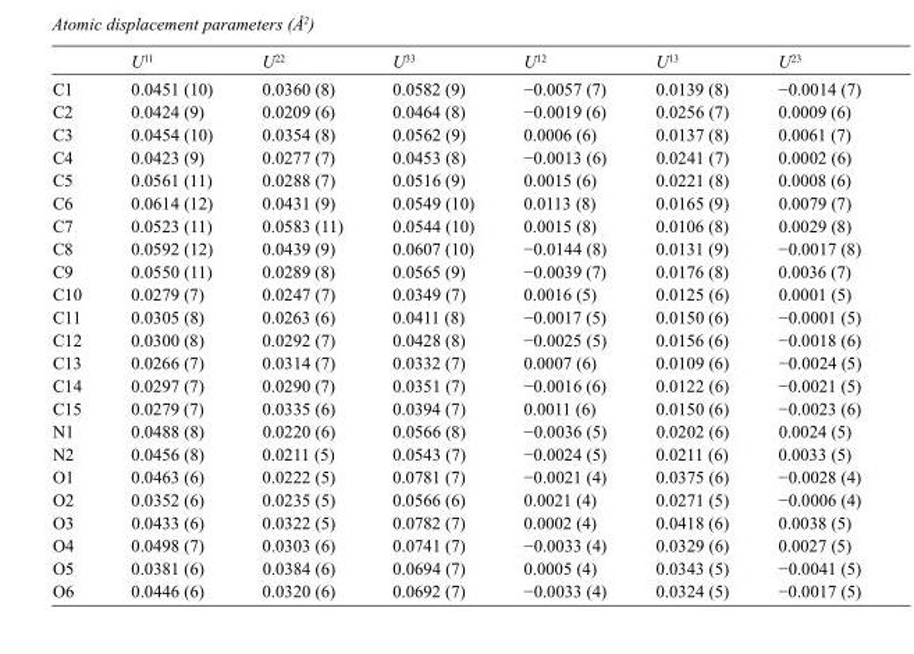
<table><thead><tr><td></td><td>U<sup>11</sup></td><td>U<sup>22</sup></td><td>U<sup>33</sup></td><td>U<sup>12</sup></td><td>U<sup>13</sup></td><td>U<sup>23</sup></td></tr></thead><tbody><tr><td>C1</td><td>0.0451 (10)</td><td>0.0360 (8)</td><td>0.0582 (9)</td><td>−0.0057 (7)</td><td>0.0139 (8)</td><td>−0.0014 (7)</td></tr><tr><td>C2</td><td>0.0424 (9)</td><td>0.0209 (6)</td><td>0.0464 (8)</td><td>−0.0019 (6)</td><td>0.0256 (7)</td><td>0.0009 (6)</td></tr><tr><td>C3</td><td>0.0454 (10)</td><td>0.0354 (8)</td><td>0.0562 (9)</td><td>0.0006 (6)</td><td>0.0137 (8)</td><td>0.0061 (7)</td></tr><tr><td>C4</td><td>0.0423 (9)</td><td>0.0277 (7)</td><td>0.0453 (8)</td><td>−0.0013 (6)</td><td>0.0241 (7)</td><td>0.0002 (6)</td></tr><tr><td>C5</td><td>0.0561 (11)</td><td>0.0288 (7)</td><td>0.0516 (9)</td><td>0.0015 (6)</td><td>0.0221 (8)</td><td>0.0008 (6)</td></tr><tr><td>C6</td><td>0.0614 (12)</td><td>0.0431 (9)</td><td>0.0549 (10)</td><td>0.0113 (8)</td><td>0.0165 (9)</td><td>0.0079 (7)</td></tr><tr><td>C7</td><td>0.0523 (11)</td><td>0.0583 (11)</td><td>0.0544 (10)</td><td>0.0015 (8)</td><td>0.0106 (8)</td><td>0.0029 (8)</td></tr><tr><td>C8</td><td>0.0592 (12)</td><td>0.0439 (9)</td><td>0.0607 (10)</td><td>−0.0144 (8)</td><td>0.0131 (9)</td><td>−0.0017 (8)</td></tr><tr><td>C9</td><td>0.0550 (11)</td><td>0.0289 (8)</td><td>0.0565 (9)</td><td>−0.0039 (7)</td><td>0.0176 (8)</td><td>0.0036 (7)</td></tr><tr><td>C10</td><td>0.0279 (7)</td><td>0.0247 (7)</td><td>0.0349 (7)</td><td>0.0016 (5)</td><td>0.0125 (6)</td><td>0.0001 (5)</td></tr><tr><td>C11</td><td>0.0305 (8)</td><td>0.0263 (6)</td><td>0.0411 (8)</td><td>−0.0017 (5)</td><td>0.0150 (6)</td><td>−0.0001 (5)</td></tr><tr><td>C12</td><td>0.0300 (8)</td><td>0.0292 (7)</td><td>0.0428 (8)</td><td>−0.0025 (5)</td><td>0.0156 (6)</td><td>−0.0018 (6)</td></tr><tr><td>C13</td><td>0.0266 (7)</td><td>0.0314 (7)</td><td>0.0332 (7)</td><td>0.0007 (6)</td><td>0.0109 (6)</td><td>−0.0024 (5)</td></tr><tr><td>C14</td><td>0.0297 (7)</td><td>0.0290 (7)</td><td>0.0351 (7)</td><td>−0.0016 (6)</td><td>0.0122 (6)</td><td>−0.0021 (5)</td></tr><tr><td>C15</td><td>0.0279 (7)</td><td>0.0335 (6)</td><td>0.0394 (7)</td><td>0.0011 (6)</td><td>0.0150 (6)</td><td>−0.0023 (6)</td></tr><tr><td>N1</td><td>0.0488 (8)</td><td>0.0220 (6)</td><td>0.0566 (8)</td><td>−0.0036 (5)</td><td>0.0202 (6)</td><td>0.0024 (5)</td></tr><tr><td>N2</td><td>0.0456 (8)</td><td>0.0211 (5)</td><td>0.0543 (7)</td><td>−0.0024 (5)</td><td>0.0211 (6)</td><td>0.0033 (5)</td></tr><tr><td>O1</td><td>0.0463 (6)</td><td>0.0222 (5)</td><td>0.0781 (7)</td><td>−0.0021 (4)</td><td>0.0375 (6)</td><td>−0.0028 (4)</td></tr><tr><td>O2</td><td>0.0352 (6)</td><td>0.0235 (5)</td><td>0.0566 (6)</td><td>0.0021 (4)</td><td>0.0271 (5)</td><td>−0.0006 (4)</td></tr><tr><td>O3</td><td>0.0433 (6)</td><td>0.0322 (5)</td><td>0.0782 (7)</td><td>0.0002 (4)</td><td>0.0418 (6)</td><td>0.0038 (5)</td></tr><tr><td>O4</td><td>0.0498 (7)</td><td>0.0303 (6)</td><td>0.0741 (7)</td><td>−0.0033 (4)</td><td>0.0329 (6)</td><td>0.0027 (5)</td></tr><tr><td>O5</td><td>0.0381 (6)</td><td>0.0384 (6)</td><td>0.0694 (7)</td><td>0.0005 (4)</td><td>0.0343 (5)</td><td>−0.0041 (5)</td></tr><tr><td>O6</td><td>0.0446 (6)</td><td>0.0320 (6)</td><td>0.0692 (7)</td><td>−0.0033 (4)</td><td>0.0324 (5)</td><td>−0.0017 (5)</td></tr></tbody></table>